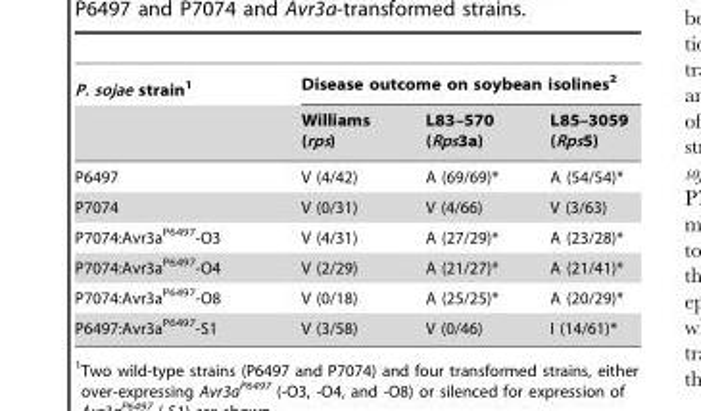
<table><thead><tr><td rowspan="2">P. sojae strain<sup>1</sup></td><td colspan="3">Disease outcome on soybean isolines<sup>2</sup></td></tr><tr><td>Williams (rps)</td><td>L83–570 (Rps3a)</td><td>L85–3059 (Rps5)</td></tr></thead><tbody><tr><td>P6497</td><td>V (4/42)</td><td>A (69/69)*</td><td>A (54/54)*</td></tr><tr><td>P7074</td><td>V (0/31)</td><td>V (4/66)</td><td>V (3/63)</td></tr><tr><td>P7074:Avr3a<sup>P6497</sup>-O3</td><td>V (4/31)</td><td>A (27/29)*</td><td>A (23/28)*</td></tr><tr><td>P7074:Avr3a<sup>P6497</sup>-O4</td><td>V (2/29)</td><td>A (21/27)*</td><td>A (21/41)*</td></tr><tr><td>P7074:Avr3a<sup>P6497</sup>-O8</td><td>V (0/18)</td><td>A (25/25)*</td><td>A (20/29)*</td></tr><tr><td>P6497:Avr3a<sup>P6497</sup>-S1</td><td>V (3/58)</td><td>V (0/46)</td><td>I (14/61)*</td></tr></tbody></table>